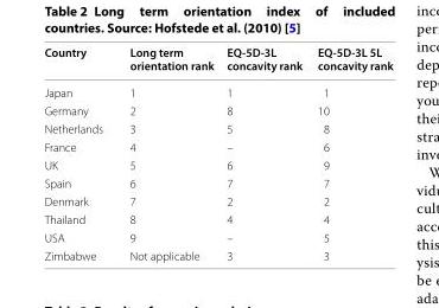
<table><thead><tr><td>Country</td><td>Long term orientation rank</td><td>EQ-5D-3L concavity rank</td><td>EQ-5D-3L 5L concavity rank</td></tr></thead><tbody><tr><td>Japan</td><td>1</td><td>1</td><td>1</td></tr><tr><td>Germany</td><td>2</td><td>8</td><td>10</td></tr><tr><td>Netherlands</td><td>3</td><td>5</td><td>8</td></tr><tr><td>France</td><td>4</td><td>–</td><td>6</td></tr><tr><td>UK</td><td>5</td><td>6</td><td>9</td></tr><tr><td>Spain</td><td>6</td><td>7</td><td>7</td></tr><tr><td>Denmark</td><td>7</td><td>2</td><td>2</td></tr><tr><td>Thailand</td><td>8</td><td>4</td><td>4</td></tr><tr><td>USA</td><td>9</td><td>–</td><td>5</td></tr><tr><td>Zimbabwe</td><td>Not applicable</td><td>3</td><td>3</td></tr></tbody></table>